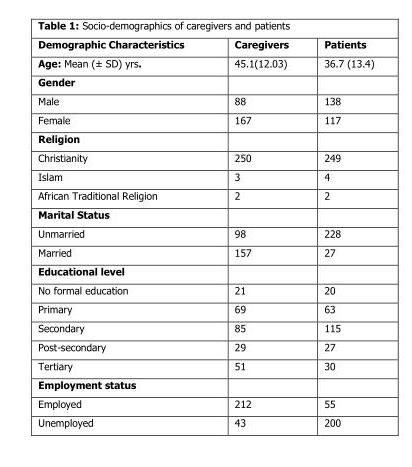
<table><thead><tr><td>Demographic Characteristics</td><td>Caregivers</td><td>Patients</td></tr></thead><tbody><tr><td>Age: Mean (± SD) yrs.</td><td>45.1(12.03)</td><td>36.7 (13.4)</td></tr><tr><td colspan="3">Gender</td></tr><tr><td>Male</td><td>88</td><td>138</td></tr><tr><td>Female</td><td>167</td><td>117</td></tr><tr><td colspan="3">Religion</td></tr><tr><td>Christianity</td><td>250</td><td>249</td></tr><tr><td>Islam</td><td>3</td><td>4</td></tr><tr><td>African Traditional Religion</td><td>2</td><td>2</td></tr><tr><td colspan="3">Marital Status</td></tr><tr><td>Unmarried</td><td>98</td><td>228</td></tr><tr><td>Married</td><td>157</td><td>27</td></tr><tr><td colspan="3">Educational level</td></tr><tr><td>No formal education</td><td>21</td><td>20</td></tr><tr><td>Primary</td><td>69</td><td>63</td></tr><tr><td>Secondary</td><td>85</td><td>115</td></tr><tr><td>Post-secondary</td><td>29</td><td>27</td></tr><tr><td>Tertiary</td><td>51</td><td>30</td></tr><tr><td colspan="3">Employment status</td></tr><tr><td>Employed</td><td>212</td><td>55</td></tr><tr><td>Unemployed</td><td>43</td><td>200</td></tr></tbody></table>